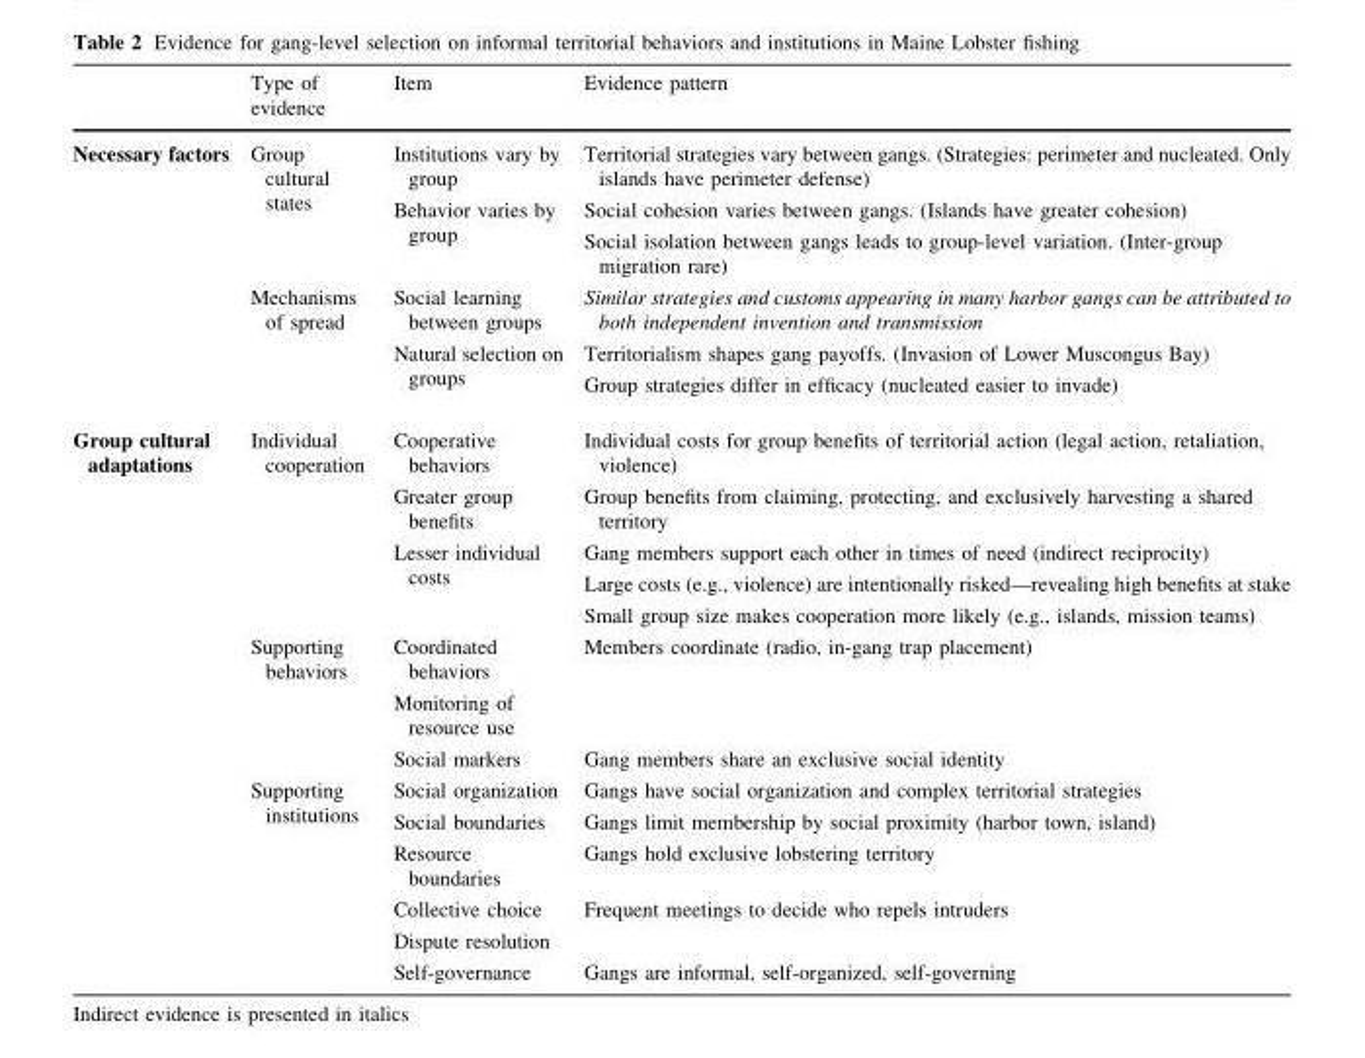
<table><thead><tr><td></td><td>Type of evidence</td><td>Item</td><td>Evidence pattern</td></tr></thead><tbody><tr><td rowspan="6">Necessary factors</td><td rowspan="3">Group cultural states</td><td>Institutions vary by group</td><td>Territorial strategies vary between gangs. (Strategies: perimeter and nucleated. Only islands have perimeter defense)</td></tr><tr><td rowspan="2">Behavior varies by group</td><td>Social cohesion varies between gangs. (Islands have greater cohesion)</td></tr><tr><td>Social isolation between gangs leads to group-level variation. (Inter-group migration rare)</td></tr><tr><td rowspan="3">Mechanisms of spread</td><td>Social learning between groups</td><td>Similar strategies and customs appearing in many harbor gangs can be attributed to both independent invention and transmission</td></tr><tr><td rowspan="2">Natural selection on groups</td><td>Territorialism shapes gang payoffs. (Invasion of Lower Muscongus Bay)</td></tr><tr><td>Group strategies differ in efficacy (nucleated easier to invade)</td></tr><tr><td rowspan="14">Group cultural adaptations</td><td rowspan="5">Individual cooperation</td><td>Cooperative behaviors</td><td>Individual costs for group benefits of territorial action (legal action, retaliation, violence)</td></tr><tr><td>Greater group benefits</td><td>Group benefits from claiming, protecting, and exclusively harvesting a shared territory</td></tr><tr><td rowspan="3">Lesser individual costs</td><td>Gang members support each other in times of need (indirect reciprocity)</td></tr><tr><td>Large costs (e.g., violence) are intentionally risked—revealing high benefits at stake</td></tr><tr><td>Small group size makes cooperation more likely (e.g., islands, mission teams)</td></tr><tr><td rowspan="3">Supporting behaviors</td><td>Coordinated behaviors</td><td>Members coordinate (radio, in-gang trap placement)</td></tr><tr><td>Monitoring of resource use</td><td></td></tr><tr><td>Social markers</td><td>Gang members share an exclusive social identity</td></tr><tr><td rowspan="6">Supporting institutions</td><td>Social organization</td><td>Gangs have social organization and complex territorial strategies</td></tr><tr><td>Social boundaries</td><td>Gangs limit membership by social proximity (harbor town, island)</td></tr><tr><td>Resource boundaries</td><td>Gangs hold exclusive lobstering territory</td></tr><tr><td>Collective choice</td><td>Frequent meetings to decide who repels intruders</td></tr><tr><td>Dispute resolution</td><td></td></tr><tr><td>Self-governance</td><td>Gangs are informal, self-organized, self-governing</td></tr></tbody></table>